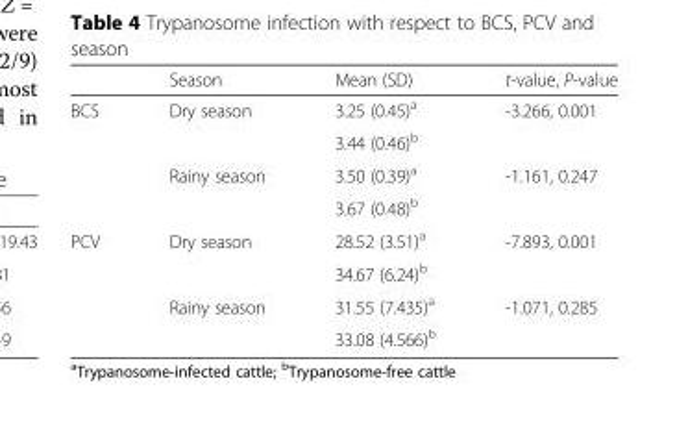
<table><thead><tr><td></td><td>Season</td><td>Mean (SD)</td><td>t-value, P-value</td></tr></thead><tbody><tr><td rowspan="4">BCS</td><td rowspan="2">Dry season</td><td>3.25 (0.45)<sup>a</sup></td><td rowspan="2">-3.266, 0.001</td></tr><tr><td>3.44 (0.46)<sup>b</sup></td></tr><tr><td rowspan="2">Rainy season</td><td>3.50 (0.39)<sup>a</sup></td><td rowspan="2">-1.161, 0.247</td></tr><tr><td>3.67 (0.48)<sup>b</sup></td></tr><tr><td rowspan="4">PCV</td><td rowspan="2">Dry season</td><td>28.52 (3.51)<sup>a</sup></td><td rowspan="2">-7.893, 0.001</td></tr><tr><td>34.67 (6.24)<sup>b</sup></td></tr><tr><td rowspan="2">Rainy season</td><td>31.55 (7.435)<sup>a</sup></td><td rowspan="2">-1.071, 0.285</td></tr><tr><td>33.08 (4.566)<sup>b</sup></td></tr></tbody></table>